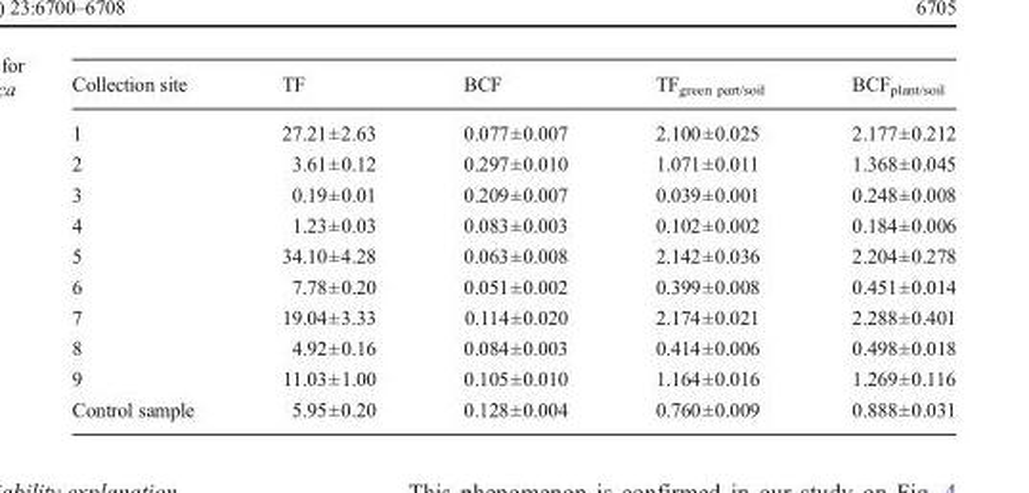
<table><thead><tr><td>Collection site</td><td>TF</td><td>BCF</td><td>TF<sub>green part/soil</sub></td><td>BCF<sub>plant/soil</sub></td></tr></thead><tbody><tr><td>1</td><td>27.21±2.63</td><td>0.077±0.007</td><td>2.100±0.025</td><td>2.177±0.212</td></tr><tr><td>2</td><td>3.61±0.12</td><td>0.297±0.010</td><td>1.071±0.011</td><td>1.368±0.045</td></tr><tr><td>3</td><td>0.19±0.01</td><td>0.209±0.007</td><td>0.039±0.001</td><td>0.248±0.008</td></tr><tr><td>4</td><td>1.23±0.03</td><td>0.083±0.003</td><td>0.102±0.002</td><td>0.184±0.006</td></tr><tr><td>5</td><td>34.10±4.28</td><td>0.063±0.008</td><td>2.142±0.036</td><td>2.204±0.278</td></tr><tr><td>6</td><td>7.78±0.20</td><td>0.051±0.002</td><td>0.399±0.008</td><td>0.451±0.014</td></tr><tr><td>7</td><td>19.04±3.33</td><td>0.114±0.020</td><td>2.174±0.021</td><td>2.288±0.401</td></tr><tr><td>8</td><td>4.92±0.16</td><td>0.084±0.003</td><td>0.414±0.006</td><td>0.498±0.018</td></tr><tr><td>9</td><td>11.03±1.00</td><td>0.105±0.010</td><td>1.164±0.016</td><td>1.269±0.116</td></tr><tr><td>Control sample</td><td>5.95±0.20</td><td>0.128±0.004</td><td>0.760±0.009</td><td>0.888±0.031</td></tr></tbody></table>